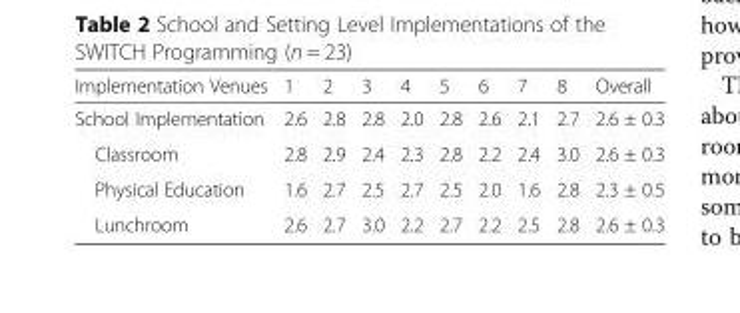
<table><thead><tr><td>Implementation Venues</td><td>1</td><td>2</td><td>3</td><td>4</td><td>5</td><td>6</td><td>7</td><td>8</td><td>Overall</td></tr></thead><tbody><tr><td>School Implementation</td><td>2.6</td><td>2.8</td><td>2.8</td><td>2.0</td><td>2.8</td><td>2.6</td><td>2.1</td><td>2.7</td><td>2.6 ± 0.3</td></tr><tr><td>Classroom</td><td>2.8</td><td>2.9</td><td>2.4</td><td>2.3</td><td>2.8</td><td>2.2</td><td>2.4</td><td>3.0</td><td>2.6 ± 0.3</td></tr><tr><td>Physical Education</td><td>1.6</td><td>2.7</td><td>2.5</td><td>2.7</td><td>2.5</td><td>2.0</td><td>1.6</td><td>2.8</td><td>2.3 ± 0.5</td></tr><tr><td>Lunchroom</td><td>2.6</td><td>2.7</td><td>3.0</td><td>2.2</td><td>2.7</td><td>2.2</td><td>2.5</td><td>2.8</td><td>2.6 ± 0.3</td></tr></tbody></table>